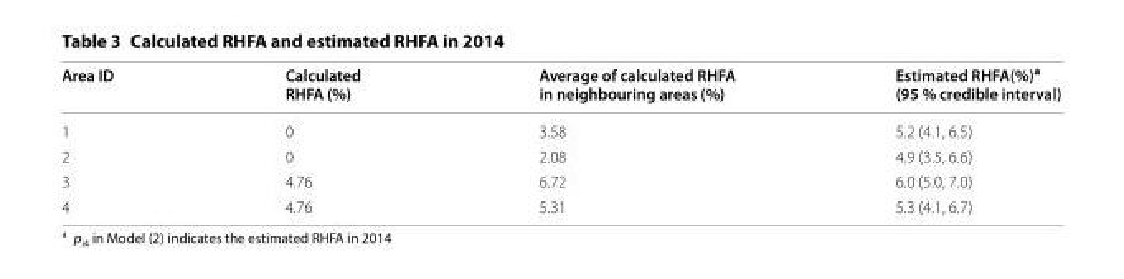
<table><thead><tr><td>Area ID</td><td>Calculated RHFA (%)</td><td>Average of calculated RHFA in neighbouring areas (%)</td><td>Estimated RHFA(%)<sup>a</sup> (95 % credible interval)</td></tr></thead><tbody><tr><td>1</td><td>0</td><td>3.58</td><td>5.2 (4.1, 6.5)</td></tr><tr><td>2</td><td>0</td><td>2.08</td><td>4.9 (3.5, 6.6)</td></tr><tr><td>3</td><td>4.76</td><td>6.72</td><td>6.0 (5.0, 7.0)</td></tr><tr><td>4</td><td>4.76</td><td>5.31</td><td>5.3 (4.1, 6.7)</td></tr></tbody></table>